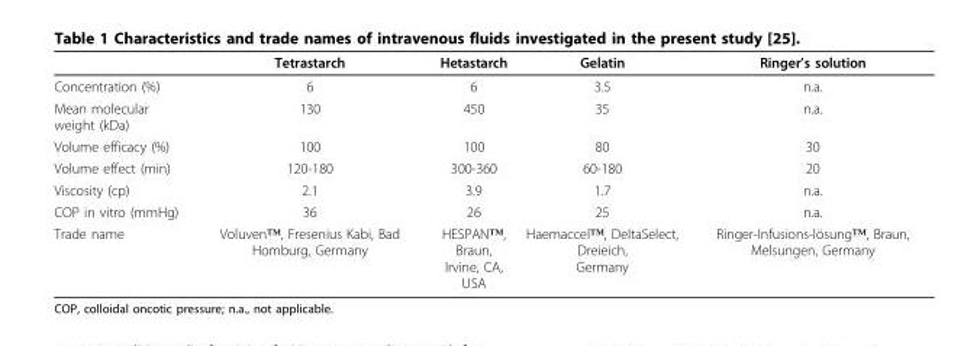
<table><thead><tr><td></td><td>Tetrastarch</td><td>Hetastarch</td><td>Gelatin</td><td>Ringer’s solution</td></tr></thead><tbody><tr><td>Concentration (%)</td><td>6</td><td>6</td><td>3.5</td><td>n.a.</td></tr><tr><td>Mean molecular weight (kDa)</td><td>130</td><td>450</td><td>35</td><td>n.a.</td></tr><tr><td>Volume efficacy (%)</td><td>100</td><td>100</td><td>80</td><td>30</td></tr><tr><td>Volume effect (min)</td><td>120-180</td><td>300-360</td><td>60-180</td><td>20</td></tr><tr><td>Viscosity (cp)</td><td>2.1</td><td>3.9</td><td>1.7</td><td>n.a.</td></tr><tr><td>COP in vitro (mmHg)</td><td>36</td><td>26</td><td>25</td><td>n.a.</td></tr><tr><td>Trade name</td><td>Voluven™, Fresenius Kabi, Bad Homburg, Germany</td><td>HESPAN™, Braun, Irvine, CA, USA</td><td>Haemaccel™, DeltaSelect, Dreieich, Germany</td><td>Ringer-Infusions-lösung™, Braun, Melsungen, Germany</td></tr></tbody></table>